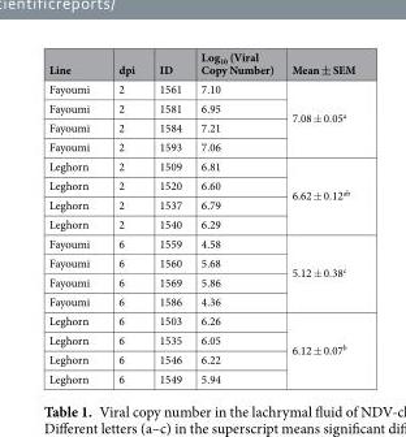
<table><thead><tr><td>Line</td><td>dpi</td><td>ID</td><td>Log<sub>10</sub> (Viral Copy Number)</td><td>Mean ± SEM</td></tr></thead><tbody><tr><td>Fayoumi</td><td>2</td><td>1561</td><td>7.10</td><td rowspan="4">7.08 ± 0.05<sup>a</sup></td></tr><tr><td>Fayoumi</td><td>2</td><td>1581</td><td>6.95</td></tr><tr><td>Fayoumi</td><td>2</td><td>1584</td><td>7.21</td></tr><tr><td>Fayoumi</td><td>2</td><td>1593</td><td>7.06</td></tr><tr><td>Leghorn</td><td>2</td><td>1509</td><td>6.81</td><td rowspan="4">6.62 ± 0.12<sup>ab</sup></td></tr><tr><td>Leghorn</td><td>2</td><td>1520</td><td>6.60</td></tr><tr><td>Leghorn</td><td>2</td><td>1537</td><td>6.79</td></tr><tr><td>Leghorn</td><td>2</td><td>1540</td><td>6.29</td></tr><tr><td>Fayoumi</td><td>6</td><td>1559</td><td>4.58</td><td rowspan="4">5.12 ± 0.38<sup>c</sup></td></tr><tr><td>Fayoumi</td><td>6</td><td>1560</td><td>5.68</td></tr><tr><td>Fayoumi</td><td>6</td><td>1569</td><td>5.86</td></tr><tr><td>Fayoumi</td><td>6</td><td>1586</td><td>4.36</td></tr><tr><td>Leghorn</td><td>6</td><td>1503</td><td>6.26</td><td rowspan="4">6.12 ± 0.07<sup>b</sup></td></tr><tr><td>Leghorn</td><td>6</td><td>1535</td><td>6.05</td></tr><tr><td>Leghorn</td><td>6</td><td>1546</td><td>6.22</td></tr><tr><td>Leghorn</td><td>6</td><td>1549</td><td>5.94</td></tr></tbody></table>